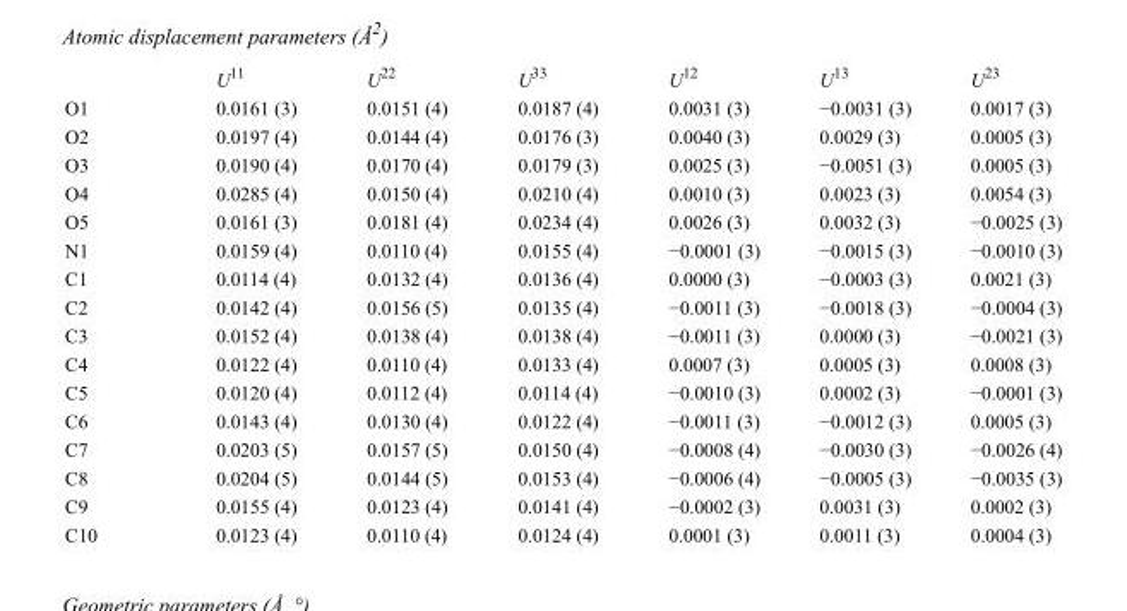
<table><thead><tr><td></td><td>U<sup>11</sup></td><td>U<sup>22</sup></td><td>U<sup>33</sup></td><td>U<sup>12</sup></td><td>U<sup>13</sup></td><td>U<sup>23</sup></td></tr></thead><tbody><tr><td>O1</td><td>0.0161 (3)</td><td>0.0151 (4)</td><td>0.0187 (4)</td><td>0.0031 (3)</td><td>−0.0031 (3)</td><td>0.0017 (3)</td></tr><tr><td>O2</td><td>0.0197 (4)</td><td>0.0144 (4)</td><td>0.0176 (3)</td><td>0.0040 (3)</td><td>0.0029 (3)</td><td>0.0005 (3)</td></tr><tr><td>O3</td><td>0.0190 (4)</td><td>0.0170 (4)</td><td>0.0179 (3)</td><td>0.0025 (3)</td><td>−0.0051 (3)</td><td>0.0005 (3)</td></tr><tr><td>O4</td><td>0.0285 (4)</td><td>0.0150 (4)</td><td>0.0210 (4)</td><td>0.0010 (3)</td><td>0.0023 (3)</td><td>0.0054 (3)</td></tr><tr><td>O5</td><td>0.0161 (3)</td><td>0.0181 (4)</td><td>0.0234 (4)</td><td>0.0026 (3)</td><td>0.0032 (3)</td><td>−0.0025 (3)</td></tr><tr><td>N1</td><td>0.0159 (4)</td><td>0.0110 (4)</td><td>0.0155 (4)</td><td>−0.0001 (3)</td><td>−0.0015 (3)</td><td>−0.0010 (3)</td></tr><tr><td>C1</td><td>0.0114 (4)</td><td>0.0132 (4)</td><td>0.0136 (4)</td><td>0.0000 (3)</td><td>−0.0003 (3)</td><td>0.0021 (3)</td></tr><tr><td>C2</td><td>0.0142 (4)</td><td>0.0156 (5)</td><td>0.0135 (4)</td><td>−0.0011 (3)</td><td>−0.0018 (3)</td><td>−0.0004 (3)</td></tr><tr><td>C3</td><td>0.0152 (4)</td><td>0.0138 (4)</td><td>0.0138 (4)</td><td>−0.0011 (3)</td><td>0.0000 (3)</td><td>−0.0021 (3)</td></tr><tr><td>C4</td><td>0.0122 (4)</td><td>0.0110 (4)</td><td>0.0133 (4)</td><td>0.0007 (3)</td><td>0.0005 (3)</td><td>0.0008 (3)</td></tr><tr><td>C5</td><td>0.0120 (4)</td><td>0.0112 (4)</td><td>0.0114 (4)</td><td>−0.0010 (3)</td><td>0.0002 (3)</td><td>−0.0001 (3)</td></tr><tr><td>C6</td><td>0.0143 (4)</td><td>0.0130 (4)</td><td>0.0122 (4)</td><td>−0.0011 (3)</td><td>−0.0012 (3)</td><td>0.0005 (3)</td></tr><tr><td>C7</td><td>0.0203 (5)</td><td>0.0157 (5)</td><td>0.0150 (4)</td><td>−0.0008 (4)</td><td>−0.0030 (3)</td><td>−0.0026 (4)</td></tr><tr><td>C8</td><td>0.0204 (5)</td><td>0.0144 (5)</td><td>0.0153 (4)</td><td>−0.0006 (4)</td><td>−0.0005 (3)</td><td>−0.0035 (3)</td></tr><tr><td>C9</td><td>0.0155 (4)</td><td>0.0123 (4)</td><td>0.0141 (4)</td><td>−0.0002 (3)</td><td>0.0031 (3)</td><td>0.0002 (3)</td></tr><tr><td>C10</td><td>0.0123 (4)</td><td>0.0110 (4)</td><td>0.0124 (4)</td><td>0.0001 (3)</td><td>0.0011 (3)</td><td>0.0004 (3)</td></tr></tbody></table>